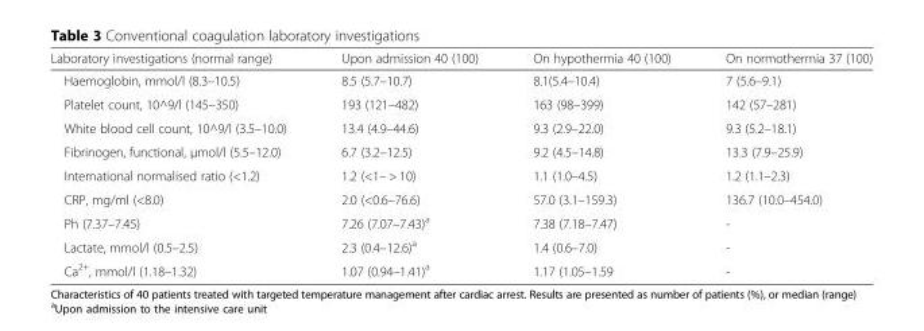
<table><thead><tr><td>Laboratory investigations (normal range)</td><td>Upon admission 40 (100)</td><td>On hypothermia 40 (100)</td><td>On normothermia 37 (100)</td></tr></thead><tbody><tr><td>Haemoglobin, mmol/l (8.3–10.5)</td><td>8.5 (5.7–10.7)</td><td>8.1(5.4–10.4)</td><td>7 (5.6–9.1)</td></tr><tr><td>Platelet count, 10^9/l (145–350)</td><td>193 (121–482)</td><td>163 (98–399)</td><td>142 (57–281)</td></tr><tr><td>White blood cell count, 10^9/l (3.5–10.0)</td><td>13.4 (4.9–44.6)</td><td>9.3 (2.9–22.0)</td><td>9.3 (5.2–18.1)</td></tr><tr><td>Fibrinogen, functional, μmol/l (5.5–12.0)</td><td>6.7 (3.2–12.5)</td><td>9.2 (4.5–14.8)</td><td>13.3 (7.9–25.9)</td></tr><tr><td>International normalised ratio (&lt;1.2)</td><td>1.2 (&lt;1– &gt; 10)</td><td>1.1 (1.0–4.5)</td><td>1.2 (1.1–2.3)</td></tr><tr><td>CRP, mg/ml (&lt;8.0)</td><td>2.0 (&lt;0.6–76.6)</td><td>57.0 (3.1–159.3)</td><td>136.7 (10.0–454.0)</td></tr><tr><td>Ph (7.37–7.45)</td><td>7.26 (7.07–7.43)<sup>a</sup></td><td>7.38 (7.18–7.47)</td><td>-</td></tr><tr><td>Lactate, mmol/l (0.5–2.5)</td><td>2.3 (0.4–12.6)<sup>a</sup></td><td>1.4 (0.6–7.0)</td><td>-</td></tr><tr><td>Ca<sup>2+</sup>, mmol/l (1.18–1.32)</td><td>1.07 (0.94–1.41)<sup>a</sup></td><td>1.17 (1.05–1.59</td><td>-</td></tr></tbody></table>